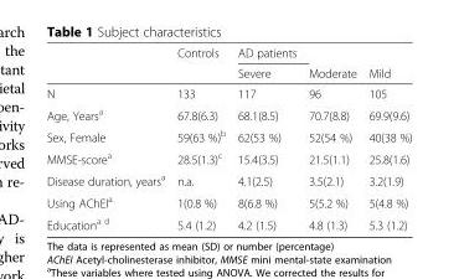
<table><thead><tr><td rowspan="2"></td><td rowspan="2">Controls</td><td rowspan="2">AD patients Severe</td><td rowspan="2">Moderate</td><td rowspan="2">Mild</td></tr><tr></tr></thead><tbody><tr><td>N</td><td>133</td><td>117</td><td>96</td><td>105</td></tr><tr><td>Age, Years<sup>a</sup></td><td>67.8(6.3)</td><td>68.1(8.5)</td><td>70.7(8.8)</td><td>69.9(9.6)</td></tr><tr><td>Sex, Female</td><td>59(63 %)<sup>b</sup></td><td>62(53 %)</td><td>52(54 %)</td><td>40(38 %)</td></tr><tr><td>MMSE-score<sup>a</sup></td><td>28.5(1.3)<sup>c</sup></td><td>15.4(3.5)</td><td>21.5(1.1)</td><td>25.8(1.6)</td></tr><tr><td>Disease duration, years<sup>a</sup></td><td>n.a.</td><td>4.1(2.5)</td><td>3.5(2.1)</td><td>3.2(1.9)</td></tr><tr><td>Using AChEI<sup>a</sup></td><td>1(0.8 %)</td><td>8(6.8 %)</td><td>5(5.2 %)</td><td>5(4.8 %)</td></tr><tr><td>Education<sup>a d</sup></td><td>5.4 (1.2)</td><td>4.2 (1.5)</td><td>4.8 (1.3)</td><td>5.3 (1.2)</td></tr></tbody></table>